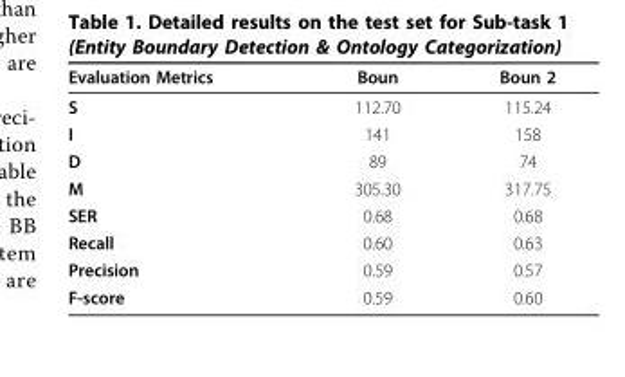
<table><thead><tr><td>Evaluation Metrics</td><td>Boun</td><td>Boun 2</td></tr></thead><tbody><tr><td>S</td><td>112.70</td><td>115.24</td></tr><tr><td>I</td><td>141</td><td>158</td></tr><tr><td>D</td><td>89</td><td>74</td></tr><tr><td>M</td><td>305.30</td><td>317.75</td></tr><tr><td>SER</td><td>0.68</td><td>0.68</td></tr><tr><td>Recall</td><td>0.60</td><td>0.63</td></tr><tr><td>Precision</td><td>0.59</td><td>0.57</td></tr><tr><td>F-score</td><td>0.59</td><td>0.60</td></tr></tbody></table>